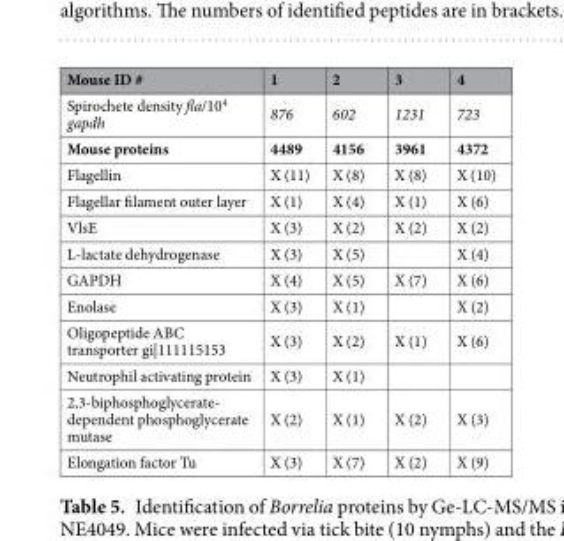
<table><thead><tr><td>Mouse ID #</td><td>1</td><td>2</td><td>3</td><td>4</td></tr></thead><tbody><tr><td>Spirochete density fla/10<sup>4</sup> gapdh</td><td>876</td><td>602</td><td>1231</td><td>723</td></tr><tr><td>Mouse proteins</td><td>4489</td><td>4156</td><td>3961</td><td>4372</td></tr><tr><td>Flagellin</td><td>X (11)</td><td>X (8)</td><td>X (8)</td><td>X (10)</td></tr><tr><td>Flagellar filament outer layer</td><td>X (1)</td><td>X (4)</td><td>X (1)</td><td>X (6)</td></tr><tr><td>VlsE</td><td>X (3)</td><td>X (2)</td><td>X (2)</td><td>X (2)</td></tr><tr><td>L-lactate dehydrogenase</td><td>X (3)</td><td>X (5)</td><td></td><td>X (4)</td></tr><tr><td>GAPDH</td><td>X (4)</td><td>X (5)</td><td>X (7)</td><td>X (6)</td></tr><tr><td>Enolase</td><td>X (3)</td><td>X (1)</td><td></td><td>X (2)</td></tr><tr><td>Oligopeptide ABC transporter gi|111115153</td><td>X (3)</td><td>X (2)</td><td>X (1)</td><td>X (6)</td></tr><tr><td>Neutrophil activating protein</td><td>X (3)</td><td>X (1)</td><td></td><td></td></tr><tr><td>2,3-biphosphoglycerate- dependent phosphoglycerate mutase</td><td>X (2)</td><td>X (1)</td><td>X (2)</td><td>X (3)</td></tr><tr><td>Elongation factor Tu</td><td>X (3)</td><td>X (7)</td><td>X (2)</td><td>X (9)</td></tr></tbody></table>